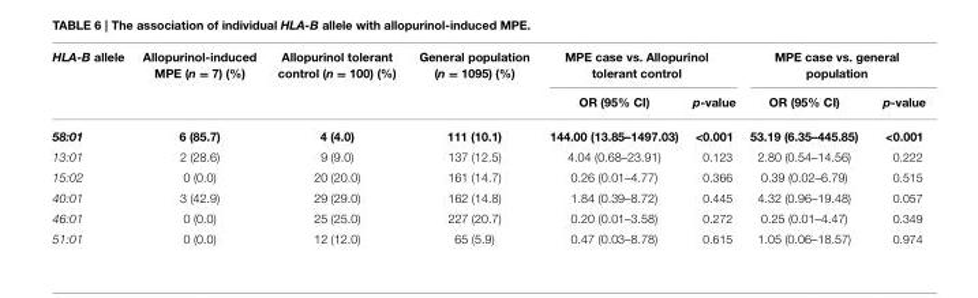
<table><thead><tr><td rowspan="2">HLA-B allele</td><td rowspan="2">Allopurinol-induced MPE (n = 7) (%)</td><td rowspan="2">Allopurinol tolerant control (n = 100) (%)</td><td rowspan="2">General population (n = 1095) (%)</td><td colspan="2">MPE case vs. Allopurinol tolerant control</td><td colspan="2">MPE case vs. general population</td></tr><tr><td>OR (95% CI)</td><td>p-value</td><td>OR (95% CI)</td><td>p-value</td></tr></thead><tbody><tr><td>58:01</td><td>6 (85.7)</td><td>4 (4.0)</td><td>111 (10.1)</td><td>144.00 (13.85–1497.03)</td><td>&lt;0.001</td><td>53.19 (6.35–445.85)</td><td>&lt;0.001</td></tr><tr><td>13:01</td><td>2 (28.6)</td><td>9 (9.0)</td><td>137 (12.5)</td><td>4.04 (0.68–23.91)</td><td>0.123</td><td>2.80 (0.54–14.56)</td><td>0.222</td></tr><tr><td>15:02</td><td>0 (0.0)</td><td>20 (20.0)</td><td>161 (14.7)</td><td>0.26 (0.01–4.77)</td><td>0.366</td><td>0.39 (0.02–6.79)</td><td>0.515</td></tr><tr><td>40:01</td><td>3 (42.9)</td><td>29 (29.0)</td><td>162 (14.8)</td><td>1.84 (0.39–8.72)</td><td>0.445</td><td>4.32 (0.96–19.48)</td><td>0.057</td></tr><tr><td>46:01</td><td>0 (0.0)</td><td>25 (25.0)</td><td>227 (20.7)</td><td>0.20 (0.01–3.58)</td><td>0.272</td><td>0.25 (0.01–4.47)</td><td>0.349</td></tr><tr><td>51:01</td><td>0 (0.0)</td><td>12 (12.0)</td><td>65 (5.9)</td><td>0.47 (0.03–8.78)</td><td>0.615</td><td>1.05 (0.06–18.57)</td><td>0.974</td></tr></tbody></table>